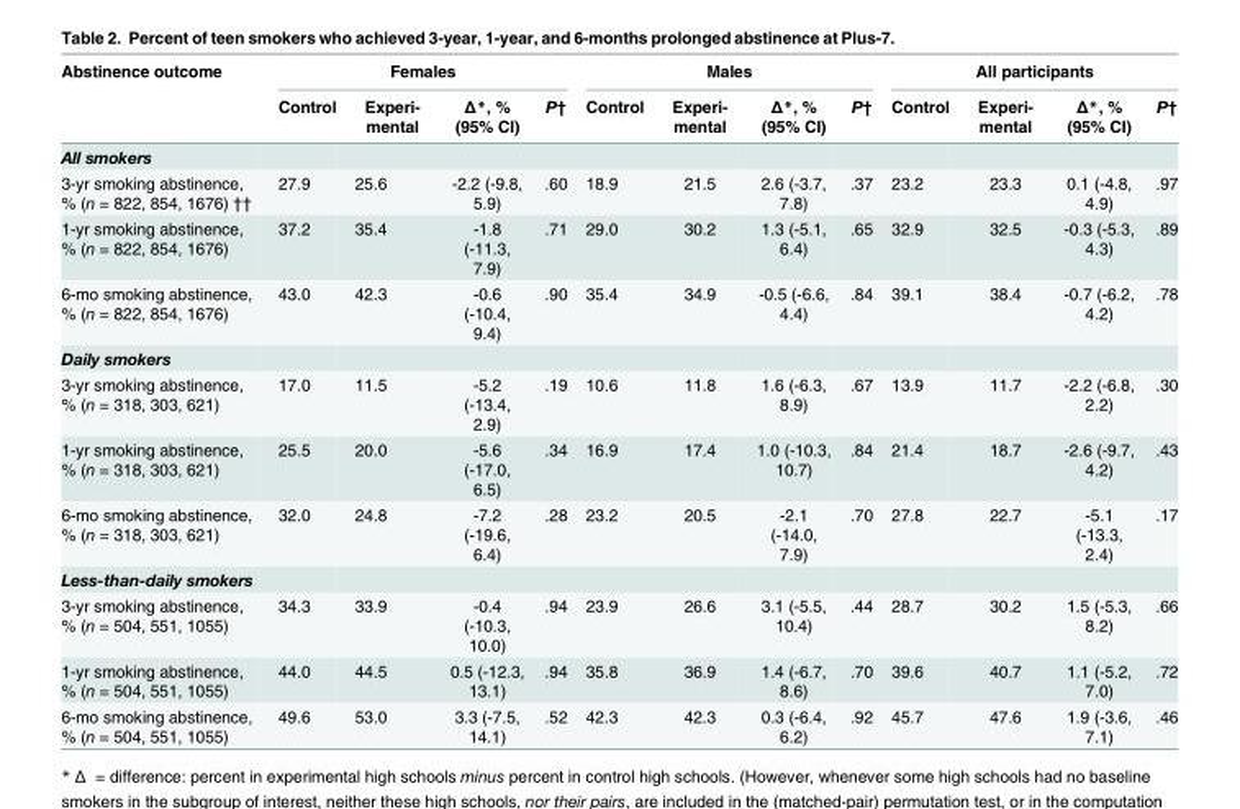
<table><thead><tr><td rowspan="2">Abstinence outcome</td><td colspan="4">Females</td><td colspan="4">Males</td><td colspan="4">All participants</td></tr><tr><td>Control</td><td>Experi- mental</td><td>Δ*, % (95% CI)</td><td>P†</td><td>Control</td><td>Experi- mental</td><td>Δ*, % (95% CI)</td><td>P†</td><td>Control</td><td>Experi- mental</td><td>Δ*, % (95% CI)</td><td>P†</td></tr></thead><tbody><tr><td colspan="13">All smokers</td></tr><tr><td>3-yr smoking abstinence, % (n = 822, 854, 1676) ††</td><td>27.9</td><td>25.6</td><td>-2.2 (-9.8, 5.9)</td><td>.60</td><td>18.9</td><td>21.5</td><td>2.6 (-3.7, 7.8)</td><td>.37</td><td>23.2</td><td>23.3</td><td>0.1 (-4.8, 4.9)</td><td>.97</td></tr><tr><td>1-yr smoking abstinence, % (n = 822, 854, 1676)</td><td>37.2</td><td>35.4</td><td>-1.8 (-11.3, 7.9)</td><td>.71</td><td>29.0</td><td>30.2</td><td>1.3 (-5.1, 6.4)</td><td>.65</td><td>32.9</td><td>32.5</td><td>-0.3 (-5.3, 4.3)</td><td>.89</td></tr><tr><td>6-mo smoking abstinence, % (n = 822, 854, 1676)</td><td>43.0</td><td>42.3</td><td>-0.6 (-10.4, 9.4)</td><td>.90</td><td>35.4</td><td>34.9</td><td>-0.5 (-6.6, 4.4)</td><td>.84</td><td>39.1</td><td>38.4</td><td>-0.7 (-6.2, 4.2)</td><td>.78</td></tr><tr><td colspan="13">Daily smokers</td></tr><tr><td>3-yr smoking abstinence, % (n = 318, 303, 621)</td><td>17.0</td><td>11.5</td><td>-5.2 (-13.4, 2.9)</td><td>.19</td><td>10.6</td><td>11.8</td><td>1.6 (-6.3, 8.9)</td><td>.67</td><td>13.9</td><td>11.7</td><td>-2.2 (-6.8, 2.2)</td><td>.30</td></tr><tr><td>1-yr smoking abstinence, % (n = 318, 303, 621)</td><td>25.5</td><td>20.0</td><td>-5.6 (-17.0, 6.5)</td><td>.34</td><td>16.9</td><td>17.4</td><td>1.0 (-10.3, 10.7)</td><td>.84</td><td>21.4</td><td>18.7</td><td>-2.6 (-9.7, 4.2)</td><td>.43</td></tr><tr><td>6-mo smoking abstinence, % (n = 318, 303, 621)</td><td>32.0</td><td>24.8</td><td>-7.2 (-19.6, 6.4)</td><td>.28</td><td>23.2</td><td>20.5</td><td>-2.1 (-14.0, 7.9)</td><td>.70</td><td>27.8</td><td>22.7</td><td>-5.1 (-13.3, 2.4)</td><td>.17</td></tr><tr><td colspan="13">Less-than-daily smokers</td></tr><tr><td>3-yr smoking abstinence, % (n = 504, 551, 1055)</td><td>34.3</td><td>33.9</td><td>-0.4 (-10.3, 10.0)</td><td>.94</td><td>23.9</td><td>26.6</td><td>3.1 (-5.5, 10.4)</td><td>.44</td><td>28.7</td><td>30.2</td><td>1.5 (-5.3, 8.2)</td><td>.66</td></tr><tr><td>1-yr smoking abstinence, % (n = 504, 551, 1055)</td><td>44.0</td><td>44.5</td><td>0.5 (-12.3, 13.1)</td><td>.94</td><td>35.8</td><td>36.9</td><td>1.4 (-6.7, 8.6)</td><td>.70</td><td>39.6</td><td>40.7</td><td>1.1 (-5.2, 7.0)</td><td>.72</td></tr><tr><td>6-mo smoking abstinence, % (n = 504, 551, 1055)</td><td>49.6</td><td>53.0</td><td>3.3 (-7.5, 14.1)</td><td>.52</td><td>42.3</td><td>42.3</td><td>0.3 (-6.4, 6.2)</td><td>.92</td><td>45.7</td><td>47.6</td><td>1.9 (-3.6, 7.1)</td><td>.46</td></tr></tbody></table>